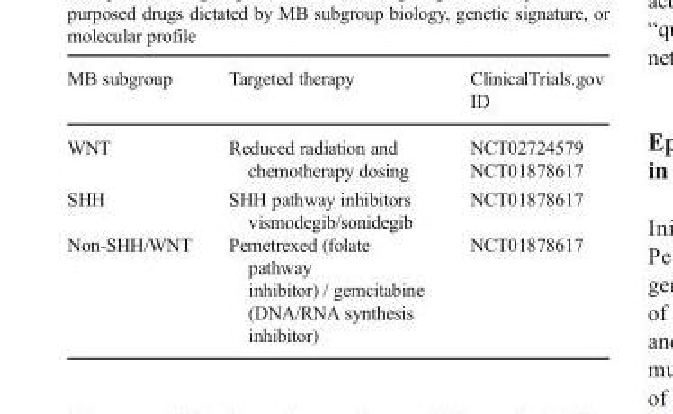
<table><thead><tr><td>MB subgroup</td><td>Targeted therapy</td><td>ClinicalTrials.gov ID</td></tr></thead><tbody><tr><td>WNT</td><td>Reduced radiation and chemotherapy dosing</td><td>NCT02724579 NCT01878617</td></tr><tr><td>SHH</td><td>SHH pathway inhibitors vismodegib/sonidegib</td><td>NCT01878617</td></tr><tr><td>Non-SHH/WNT</td><td>Pemetrexed (folate pathway inhibitor) / gemcitabine (DNA/RNA synthesis inhibitor)</td><td>NCT01878617</td></tr></tbody></table>